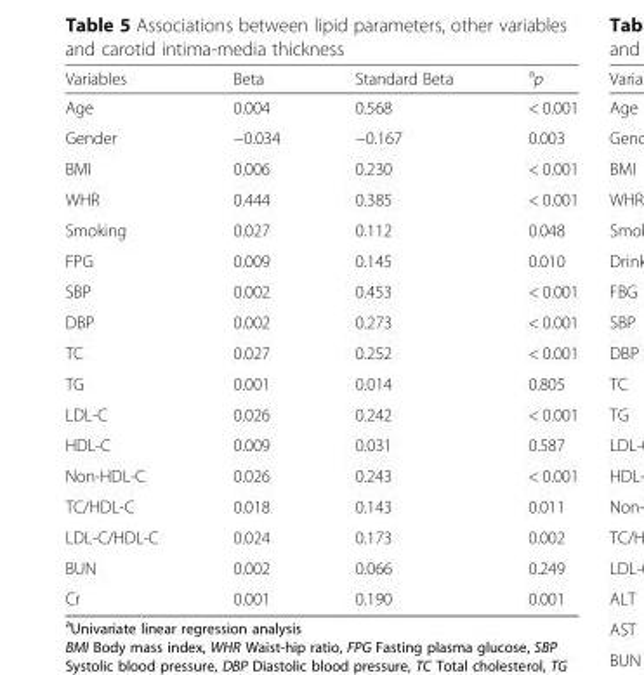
<table><thead><tr><td>Variables</td><td>Beta</td><td>Standard Beta</td><td><sup>a</sup>p</td></tr></thead><tbody><tr><td>Age</td><td>0.004</td><td>0.568</td><td>&lt; 0.001</td></tr><tr><td>Gender</td><td>−0.034</td><td>−0.167</td><td>0.003</td></tr><tr><td>BMI</td><td>0.006</td><td>0.230</td><td>&lt; 0.001</td></tr><tr><td>WHR</td><td>0.444</td><td>0.385</td><td>&lt; 0.001</td></tr><tr><td>Smoking</td><td>0.027</td><td>0.112</td><td>0.048</td></tr><tr><td>FPG</td><td>0.009</td><td>0.145</td><td>0.010</td></tr><tr><td>SBP</td><td>0.002</td><td>0.453</td><td>&lt; 0.001</td></tr><tr><td>DBP</td><td>0.002</td><td>0.273</td><td>&lt; 0.001</td></tr><tr><td>TC</td><td>0.027</td><td>0.252</td><td>&lt; 0.001</td></tr><tr><td>TG</td><td>0.001</td><td>0.014</td><td>0.805</td></tr><tr><td>LDL-C</td><td>0.026</td><td>0.242</td><td>&lt; 0.001</td></tr><tr><td>HDL-C</td><td>0.009</td><td>0.031</td><td>0.587</td></tr><tr><td>Non-HDL-C</td><td>0.026</td><td>0.243</td><td>&lt; 0.001</td></tr><tr><td>TC/HDL-C</td><td>0.018</td><td>0.143</td><td>0.011</td></tr><tr><td>LDL-C/HDL-C</td><td>0.024</td><td>0.173</td><td>0.002</td></tr><tr><td>BUN</td><td>0.002</td><td>0.066</td><td>0.249</td></tr><tr><td>Cr</td><td>0.001</td><td>0.190</td><td>0.001</td></tr></tbody></table>